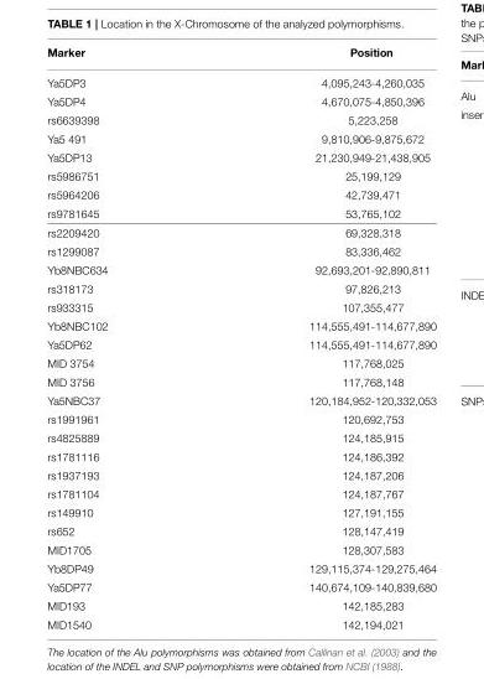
<table><thead><tr><td>Marker</td><td>Position</td></tr></thead><tbody><tr><td>Ya5DP3</td><td>4,095,243-4,260,035</td></tr><tr><td>Ya5DP4</td><td>4,670,075-4,850,396</td></tr><tr><td>rs6639398</td><td>5,223,258</td></tr><tr><td>Ya5 491</td><td>9,810,906-9,875,672</td></tr><tr><td>Ya5DP13</td><td>21,230,949-21,438,905</td></tr><tr><td>rs5986751</td><td>25,199,129</td></tr><tr><td>rs5964206</td><td>42,739,471</td></tr><tr><td>rs9781645</td><td>53,765,102</td></tr><tr><td>rs2209420</td><td>69,328,318</td></tr><tr><td>rs1299087</td><td>83,336,462</td></tr><tr><td>Yb8NBC634</td><td>92,693,201-92,890,811</td></tr><tr><td>rs318173</td><td>97,826,213</td></tr><tr><td>rs933315</td><td>107,355,477</td></tr><tr><td>Yb8NBC102</td><td>114,555,491-114,677,890</td></tr><tr><td>Ya5DP62</td><td>114,555,491-114,677,890</td></tr><tr><td>MID 3754</td><td>117,768,025</td></tr><tr><td>MID 3756</td><td>117,768,148</td></tr><tr><td>Ya5NBC37</td><td>120,184,952-120,332,053</td></tr><tr><td>rs1991961</td><td>120,692,753</td></tr><tr><td>rs4825889</td><td>124,185,915</td></tr><tr><td>rs1781116</td><td>124,186,392</td></tr><tr><td>rs1937193</td><td>124,187,206</td></tr><tr><td>rs1781104</td><td>124,187,767</td></tr><tr><td>rs149910</td><td>127,191,155</td></tr><tr><td>rs652</td><td>128,147,419</td></tr><tr><td>MID1705</td><td>128,307,583</td></tr><tr><td>Yb8DP49</td><td>129,115,374-129,275,464</td></tr><tr><td>Ya5DP77</td><td>140,674,109-140,839,680</td></tr><tr><td>MID193</td><td>142,185,283</td></tr><tr><td>MID1540</td><td>142,194,021</td></tr></tbody></table>